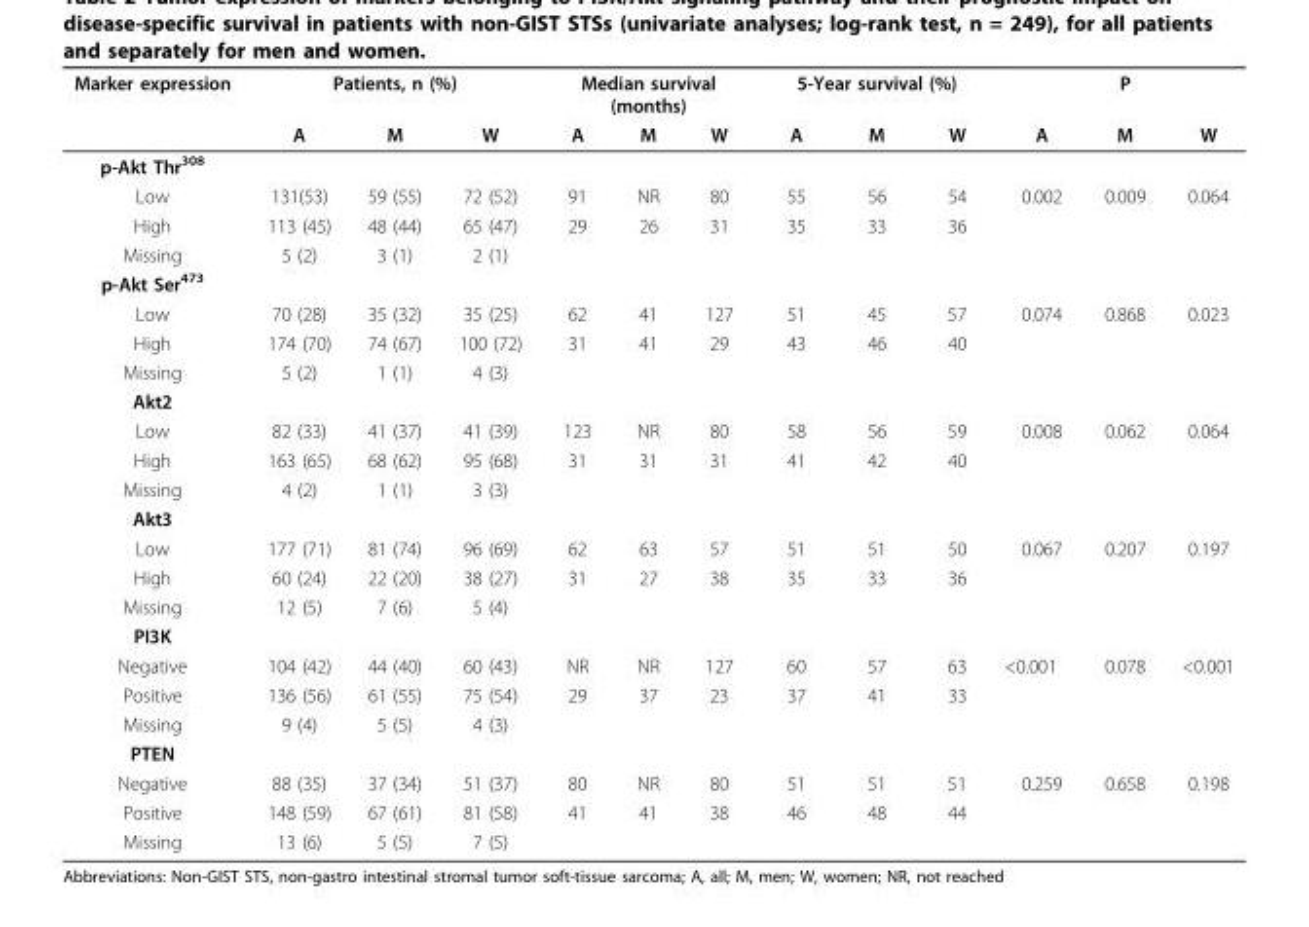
<table><thead><tr><td rowspan="2">Marker expression</td><td colspan="3">Patients, n (%)</td><td colspan="3">Median survival (months)</td><td colspan="3">5-Year survival (%)</td><td colspan="3">P</td></tr><tr><td>A</td><td>M</td><td>W</td><td>A</td><td>M</td><td>W</td><td>A</td><td>M</td><td>W</td><td>A</td><td>M</td><td>W</td></tr></thead><tbody><tr><td colspan="13">p-Akt Thr<sup>308</sup></td></tr><tr><td>Low</td><td>131(53)</td><td>59 (55)</td><td>72 (52)</td><td>91</td><td>NR</td><td>80</td><td>55</td><td>56</td><td>54</td><td>0.002</td><td>0.009</td><td>0.064</td></tr><tr><td>High</td><td>113 (45)</td><td>48 (44)</td><td>65 (47)</td><td>29</td><td>26</td><td>31</td><td>35</td><td>33</td><td>36</td><td></td><td></td><td></td></tr><tr><td>Missing</td><td>5 (2)</td><td>3 (1)</td><td>2 (1)</td><td></td><td></td><td></td><td></td><td></td><td></td><td></td><td></td><td></td></tr><tr><td colspan="13">p-Akt Ser<sup>473</sup></td></tr><tr><td>Low</td><td>70 (28)</td><td>35 (32)</td><td>35 (25)</td><td>62</td><td>41</td><td>127</td><td>51</td><td>45</td><td>57</td><td>0.074</td><td>0.868</td><td>0.023</td></tr><tr><td>High</td><td>174 (70)</td><td>74 (67)</td><td>100 (72)</td><td>31</td><td>41</td><td>29</td><td>43</td><td>46</td><td>40</td><td></td><td></td><td></td></tr><tr><td>Missing</td><td>5 (2)</td><td>1 (1)</td><td>4 (3)</td><td></td><td></td><td></td><td></td><td></td><td></td><td></td><td></td><td></td></tr><tr><td colspan="13">Akt2</td></tr><tr><td>Low</td><td>82 (33)</td><td>41 (37)</td><td>41 (39)</td><td>123</td><td>NR</td><td>80</td><td>58</td><td>56</td><td>59</td><td>0.008</td><td>0.062</td><td>0.064</td></tr><tr><td>High</td><td>163 (65)</td><td>68 (62)</td><td>95 (68)</td><td>31</td><td>31</td><td>31</td><td>41</td><td>42</td><td>40</td><td></td><td></td><td></td></tr><tr><td>Missing</td><td>4 (2)</td><td>1 (1)</td><td>3 (3)</td><td></td><td></td><td></td><td></td><td></td><td></td><td></td><td></td><td></td></tr><tr><td colspan="13">Akt3</td></tr><tr><td>Low</td><td>177 (71)</td><td>81 (74)</td><td>96 (69)</td><td>62</td><td>63</td><td>57</td><td>51</td><td>51</td><td>50</td><td>0.067</td><td>0.207</td><td>0.197</td></tr><tr><td>High</td><td>60 (24)</td><td>22 (20)</td><td>38 (27)</td><td>31</td><td>27</td><td>38</td><td>35</td><td>33</td><td>36</td><td></td><td></td><td></td></tr><tr><td>Missing</td><td>12 (5)</td><td>7 (6)</td><td>5 (4)</td><td></td><td></td><td></td><td></td><td></td><td></td><td></td><td></td><td></td></tr><tr><td colspan="13">PI3K</td></tr><tr><td>Negative</td><td>104 (42)</td><td>44 (40)</td><td>60 (43)</td><td>NR</td><td>NR</td><td>127</td><td>60</td><td>57</td><td>63</td><td>&lt;0.001</td><td>0.078</td><td>&lt;0.001</td></tr><tr><td>Positive</td><td>136 (56)</td><td>61 (55)</td><td>75 (54)</td><td>29</td><td>37</td><td>23</td><td>37</td><td>41</td><td>33</td><td></td><td></td><td></td></tr><tr><td>Missing</td><td>9 (4)</td><td>5 (5)</td><td>4 (3)</td><td></td><td></td><td></td><td></td><td></td><td></td><td></td><td></td><td></td></tr><tr><td colspan="13">PTEN</td></tr><tr><td>Negative</td><td>88 (35)</td><td>37 (34)</td><td>51 (37)</td><td>80</td><td>NR</td><td>80</td><td>51</td><td>51</td><td>51</td><td>0.259</td><td>0.658</td><td>0.198</td></tr><tr><td>Positive</td><td>148 (59)</td><td>67 (61)</td><td>81 (58)</td><td>41</td><td>41</td><td>38</td><td>46</td><td>48</td><td>44</td><td></td><td></td><td></td></tr><tr><td>Missing</td><td>13 (6)</td><td>5 (5)</td><td>7 (5)</td><td></td><td></td><td></td><td></td><td></td><td></td><td></td><td></td><td></td></tr></tbody></table>